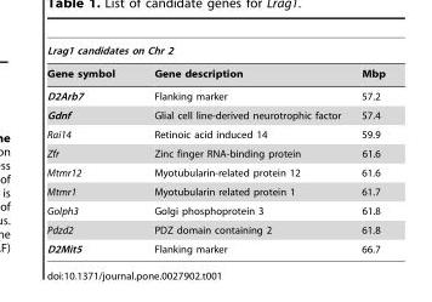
<table><thead><tr><td colspan="3">Lrag1 candidates on Chr 2</td></tr><tr><td>Gene symbol</td><td>Gene description</td><td>Mbp</td></tr></thead><tbody><tr><td>D2Arb7</td><td>Flanking marker</td><td>57.2</td></tr><tr><td>Gdnf</td><td>Glial cell line-derived neurotrophic factor</td><td>57.4</td></tr><tr><td>Rai14</td><td>Retinoic acid induced 14</td><td>59.9</td></tr><tr><td>Zfr</td><td>Zinc finger RNA-binding protein</td><td>61.6</td></tr><tr><td>Mtmr12</td><td>Myotubularin-related protein 12</td><td>61.6</td></tr><tr><td>Mtmr1</td><td>Myotubularin related protein 1</td><td>61.7</td></tr><tr><td>Golph3</td><td>Golgi phosphoprotein 3</td><td>61.8</td></tr><tr><td>Pdzd2</td><td>PDZ domain containing 2</td><td>61.8</td></tr><tr><td>D2Mit5</td><td>Flanking marker</td><td>66.7</td></tr></tbody></table>